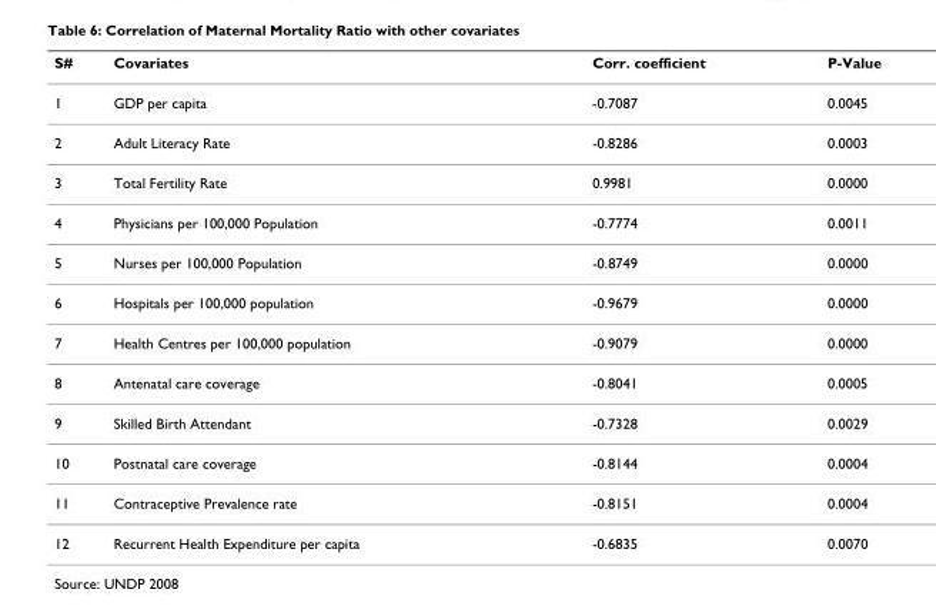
<table><thead><tr><td>S#</td><td>Covariates</td><td>Corr. coefficient</td><td>P-Value</td></tr></thead><tbody><tr><td>1</td><td>GDP per capita</td><td>-0.7087</td><td>0.0045</td></tr><tr><td>2</td><td>Adult Literacy Rate</td><td>-0.8286</td><td>0.0003</td></tr><tr><td>3</td><td>Total Fertility Rate</td><td>0.9981</td><td>0.0000</td></tr><tr><td>4</td><td>Physicians per 100,000 Population</td><td>-0.7774</td><td>0.0011</td></tr><tr><td>5</td><td>Nurses per 100,000 Population</td><td>-0.8749</td><td>0.0000</td></tr><tr><td>6</td><td>Hospitals per 100,000 population</td><td>-0.9679</td><td>0.0000</td></tr><tr><td>7</td><td>Health Centres per 100,000 population</td><td>-0.9079</td><td>0.0000</td></tr><tr><td>8</td><td>Antenatal care coverage</td><td>-0.8041</td><td>0.0005</td></tr><tr><td>9</td><td>Skilled Birth Attendant</td><td>-0.7328</td><td>0.0029</td></tr><tr><td>10</td><td>Postnatal care coverage</td><td>-0.8144</td><td>0.0004</td></tr><tr><td>11</td><td>Contraceptive Prevalence rate</td><td>-0.8151</td><td>0.0004</td></tr><tr><td>12</td><td>Recurrent Health Expenditure per capita</td><td>-0.6835</td><td>0.0070</td></tr></tbody></table>